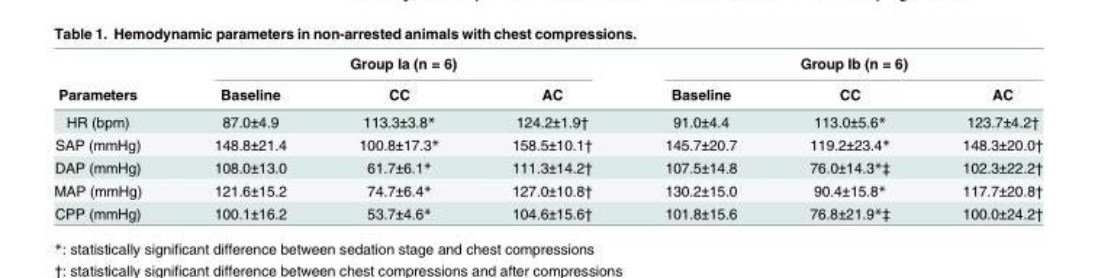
<table><thead><tr><td rowspan="2">Parameters</td><td colspan="3">Group Ia (n = 6)</td><td colspan="3">Group Ib (n = 6)</td></tr><tr><td>Baseline</td><td>CC</td><td>AC</td><td>Baseline</td><td>CC</td><td>AC</td></tr></thead><tbody><tr><td>HR (bpm)</td><td>87.0±4.9</td><td>113.3±3.8*</td><td>124.2±1.9†</td><td>91.0±4.4</td><td>113.0±5.6*</td><td>123.7±4.2†</td></tr><tr><td>SAP (mmHg)</td><td>148.8±21.4</td><td>100.8±17.3*</td><td>158.5±10.1†</td><td>145.7±20.7</td><td>119.2±23.4*</td><td>148.3±20.0†</td></tr><tr><td>DAP (mmHg)</td><td>108.0±13.0</td><td>61.7±6.1*</td><td>111.3±14.2†</td><td>107.5±14.8</td><td>76.0±14.3*‡</td><td>102.3±22.2†</td></tr><tr><td>MAP (mmHg)</td><td>121.6±15.2</td><td>74.7±6.4*</td><td>127.0±10.8†</td><td>130.2±15.0</td><td>90.4±15.8*</td><td>117.7±20.8†</td></tr><tr><td>CPP (mmHg)</td><td>100.1±16.2</td><td>53.7±4.6*</td><td>104.6±15.6†</td><td>101.8±15.6</td><td>76.8±21.9*‡</td><td>100.0±24.2†</td></tr></tbody></table>